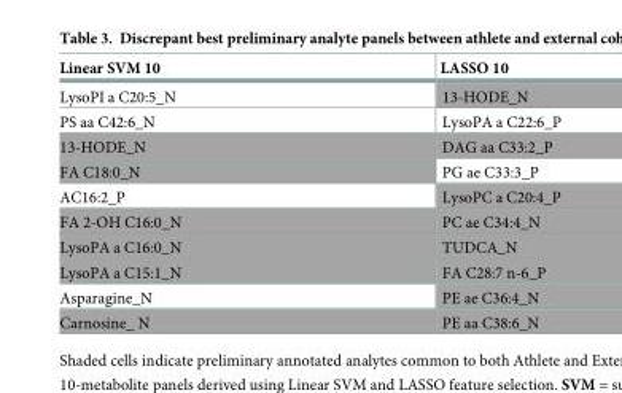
<table><thead><tr><td>Linear SVM 10</td><td>LASSO 10</td></tr></thead><tbody><tr><td>LysoPI a C20:5_N</td><td>13-HODE_N</td></tr><tr><td>PS aa C42:6_N</td><td>LysoPA a C22:6_P</td></tr><tr><td>13-HODE_N</td><td>DAG aa C33:2_P</td></tr><tr><td>FA C18:0_N</td><td>PG ae C33:3_P</td></tr><tr><td>AC16:2_P</td><td>LysoPC a C20:4_P</td></tr><tr><td>FA 2-OH C16:0_N</td><td>PC ae C34:4_N</td></tr><tr><td>LysoPA a C16:0_N</td><td>TUDCA_N</td></tr><tr><td>LysoPA a C15:1_N</td><td>FA C28:7 n-6_P</td></tr><tr><td>Asparagine_N</td><td>PE ae C36:4_N</td></tr><tr><td>Carnosine_ N</td><td>PE aa C38:6_N</td></tr></tbody></table>